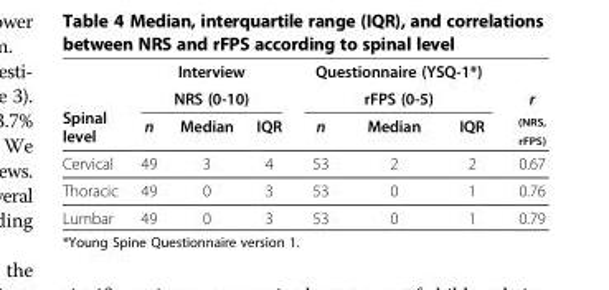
<table><thead><tr><td rowspan="3">Spinal level</td><td rowspan="2" colspan="3">Interview NRS (0-10)</td><td rowspan="2" colspan="3">Questionnaire (YSQ-1*) rFPS (0-5)</td><td rowspan="3">r <sub>(NRS, rFPS)</sub></td></tr><tr></tr><tr><td>n</td><td>Median</td><td>IQR</td><td>n</td><td>Median</td><td>IQR</td></tr></thead><tbody><tr><td>Cervical</td><td>49</td><td>3</td><td>4</td><td>53</td><td>2</td><td>2</td><td>0.67</td></tr><tr><td>Thoracic</td><td>49</td><td>0</td><td>3</td><td>53</td><td>0</td><td>1</td><td>0.76</td></tr><tr><td>Lumbar</td><td>49</td><td>0</td><td>3</td><td>53</td><td>0</td><td>1</td><td>0.79</td></tr></tbody></table>